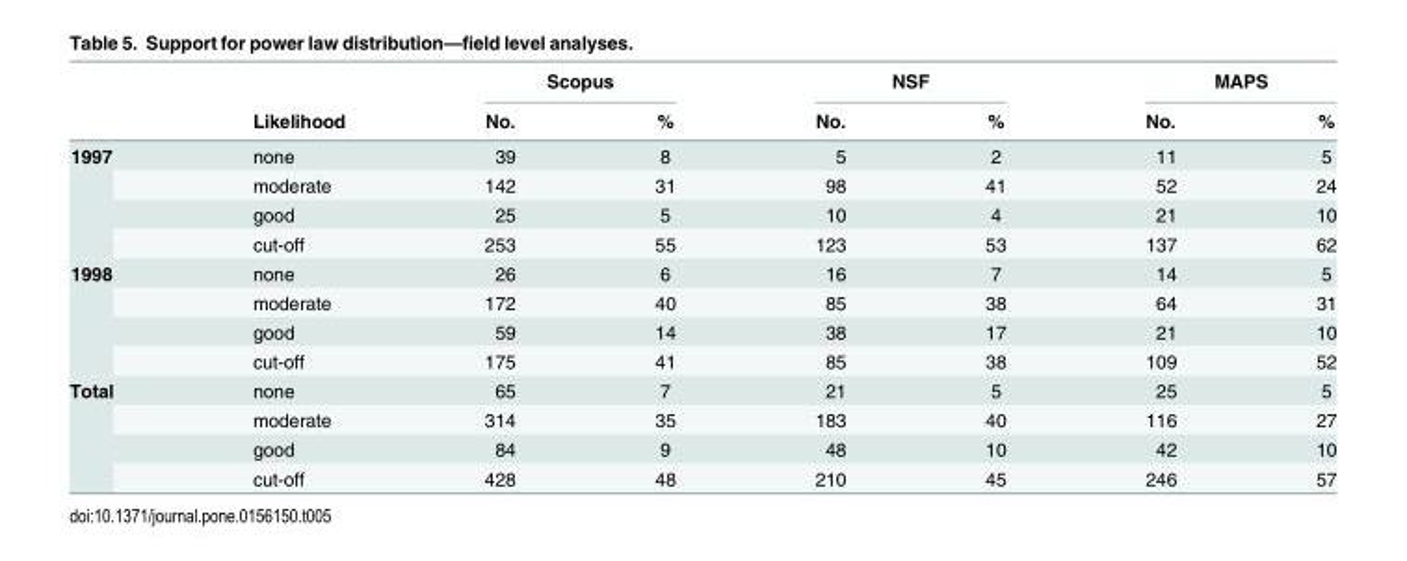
<table><thead><tr><td rowspan="2"></td><td rowspan="2">Likelihood</td><td colspan="2">Scopus</td><td colspan="2">NSF</td><td colspan="2">MAPS</td></tr><tr><td>No.</td><td>%</td><td>No.</td><td>%</td><td>No.</td><td>%</td></tr></thead><tbody><tr><td rowspan="4">1997</td><td>none</td><td>39</td><td>8</td><td>5</td><td>2</td><td>11</td><td>5</td></tr><tr><td>moderate</td><td>142</td><td>31</td><td>98</td><td>41</td><td>52</td><td>24</td></tr><tr><td>good</td><td>25</td><td>5</td><td>10</td><td>4</td><td>21</td><td>10</td></tr><tr><td>cut-off</td><td>253</td><td>55</td><td>123</td><td>53</td><td>137</td><td>62</td></tr><tr><td rowspan="4">1998</td><td>none</td><td>26</td><td>6</td><td>16</td><td>7</td><td>14</td><td>5</td></tr><tr><td>moderate</td><td>172</td><td>40</td><td>85</td><td>38</td><td>64</td><td>31</td></tr><tr><td>good</td><td>59</td><td>14</td><td>38</td><td>17</td><td>21</td><td>10</td></tr><tr><td>cut-off</td><td>175</td><td>41</td><td>85</td><td>38</td><td>109</td><td>52</td></tr><tr><td rowspan="4">Total</td><td>none</td><td>65</td><td>7</td><td>21</td><td>5</td><td>25</td><td>5</td></tr><tr><td>moderate</td><td>314</td><td>35</td><td>183</td><td>40</td><td>116</td><td>27</td></tr><tr><td>good</td><td>84</td><td>9</td><td>48</td><td>10</td><td>42</td><td>10</td></tr><tr><td>cut-off</td><td>428</td><td>48</td><td>210</td><td>45</td><td>246</td><td>57</td></tr></tbody></table>